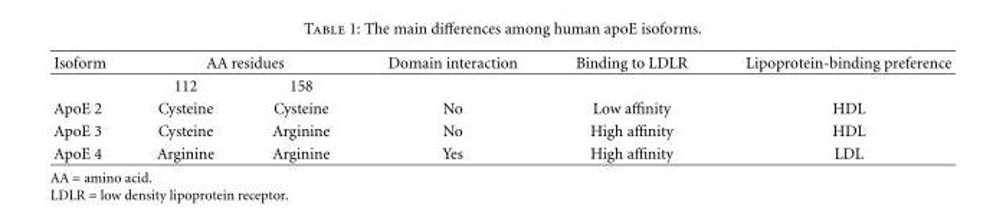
<table><thead><tr><td rowspan="2">Isoform</td><td colspan="2">AA residues</td><td rowspan="2">Domain interaction</td><td rowspan="2">Binding to LDLR</td><td rowspan="2">Lipoprotein-binding preference</td></tr><tr><td>112</td><td>158</td></tr></thead><tbody><tr><td>ApoE 2</td><td>Cysteine</td><td>Cysteine</td><td>No</td><td>Low affinity</td><td>HDL</td></tr><tr><td>ApoE 3</td><td>Cysteine</td><td>Arginine</td><td>No</td><td>High affinity</td><td>HDL</td></tr><tr><td>ApoE 4</td><td>Arginine</td><td>Arginine</td><td>Yes</td><td>High affinity</td><td>LDL</td></tr></tbody></table>